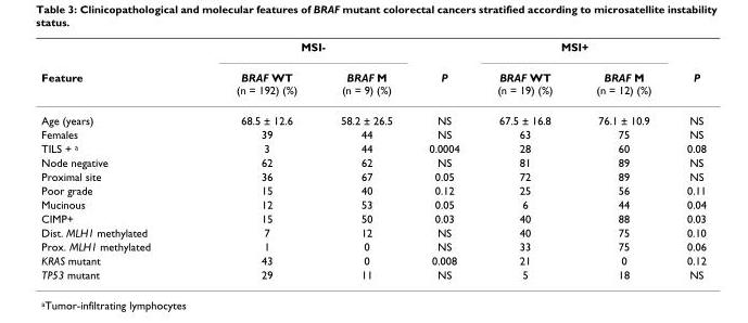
<table><thead><tr><td rowspan="2">Feature</td><td colspan="2">MSI-</td><td rowspan="2">P</td><td colspan="2">MSI+</td><td rowspan="2">P</td></tr><tr><td>BRAF WT (n = 192) (%)</td><td>BRAF M (n = 9) (%)</td><td>BRAF WT (n = 19) (%)</td><td>BRAF M (n = 12) (%)</td></tr></thead><tbody><tr><td>Age (years)</td><td>68.5 ± 12.6</td><td>58.2 ± 26.5</td><td>NS</td><td>67.5 ± 16.8</td><td>76.1 ± 10.9</td><td>NS</td></tr><tr><td>Females</td><td>39</td><td>44</td><td>NS</td><td>63</td><td>75</td><td>NS</td></tr><tr><td>TILS + <sup>a</sup></td><td>3</td><td>44</td><td>0.0004</td><td>28</td><td>60</td><td>0.08</td></tr><tr><td>Node negative</td><td>62</td><td>62</td><td>NS</td><td>81</td><td>89</td><td>NS</td></tr><tr><td>Proximal site</td><td>36</td><td>67</td><td>0.05</td><td>72</td><td>89</td><td>NS</td></tr><tr><td>Poor grade</td><td>15</td><td>40</td><td>0.12</td><td>25</td><td>56</td><td>0.11</td></tr><tr><td>Mucinous</td><td>12</td><td>53</td><td>0.05</td><td>6</td><td>44</td><td>0.04</td></tr><tr><td>CIMP+</td><td>15</td><td>50</td><td>0.03</td><td>40</td><td>88</td><td>0.03</td></tr><tr><td>Dist. MLH1 methylated</td><td>7</td><td>12</td><td>NS</td><td>40</td><td>75</td><td>0.10</td></tr><tr><td>Prox. MLH1 methylated</td><td>1</td><td>0</td><td>NS</td><td>33</td><td>75</td><td>0.06</td></tr><tr><td>KRAS mutant</td><td>43</td><td>0</td><td>0.008</td><td>21</td><td>0</td><td>0.12</td></tr><tr><td>TP53 mutant</td><td>29</td><td>11</td><td>NS</td><td>5</td><td>18</td><td>NS</td></tr></tbody></table>